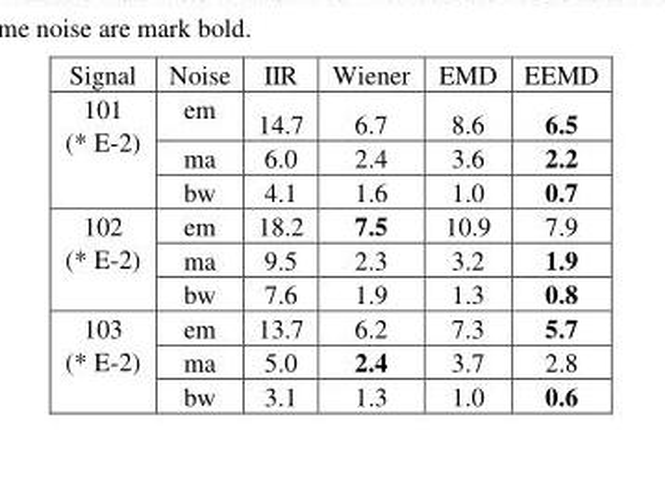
<table><thead><tr><td>Signal</td><td>Noise</td><td>IIR</td><td>Wiener</td><td>EMD</td><td>EEMD</td></tr></thead><tbody><tr><td rowspan="3">101 (* E-2)</td><td>em</td><td>14.7</td><td>6.7</td><td>8.6</td><td>6.5</td></tr><tr><td>ma</td><td>6.0</td><td>2.4</td><td>3.6</td><td>2.2</td></tr><tr><td>bw</td><td>4.1</td><td>1.6</td><td>1.0</td><td>0.7</td></tr><tr><td rowspan="3">102 (* E-2)</td><td>em</td><td>18.2</td><td>7.5</td><td>10.9</td><td>7.9</td></tr><tr><td>ma</td><td>9.5</td><td>2.3</td><td>3.2</td><td>1.9</td></tr><tr><td>bw</td><td>7.6</td><td>1.9</td><td>1.3</td><td>0.8</td></tr><tr><td rowspan="3">103 (* E-2)</td><td>em</td><td>13.7</td><td>6.2</td><td>7.3</td><td>5.7</td></tr><tr><td>ma</td><td>5.0</td><td>2.4</td><td>3.7</td><td>2.8</td></tr><tr><td>bw</td><td>3.1</td><td>1.3</td><td>1.0</td><td>0.6</td></tr></tbody></table>